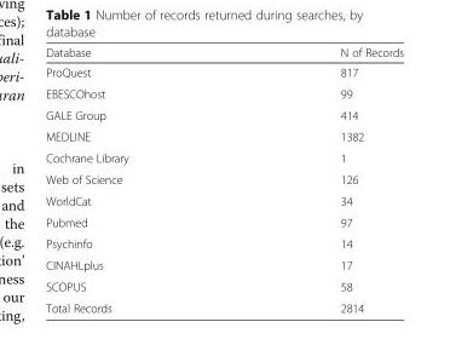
<table><thead><tr><td>Database</td><td>N of Records</td></tr></thead><tbody><tr><td>ProQuest</td><td>817</td></tr><tr><td>EBESCOhost</td><td>99</td></tr><tr><td>GALE Group</td><td>414</td></tr><tr><td>MEDLINE</td><td>1382</td></tr><tr><td>Cochrane Library</td><td>1</td></tr><tr><td>Web of Science</td><td>126</td></tr><tr><td>WorldCat</td><td>34</td></tr><tr><td>Pubmed</td><td>97</td></tr><tr><td>Psychinfo</td><td>14</td></tr><tr><td>CINAHLplus</td><td>17</td></tr><tr><td>SCOPUS</td><td>58</td></tr><tr><td>Total Records</td><td>2814</td></tr></tbody></table>